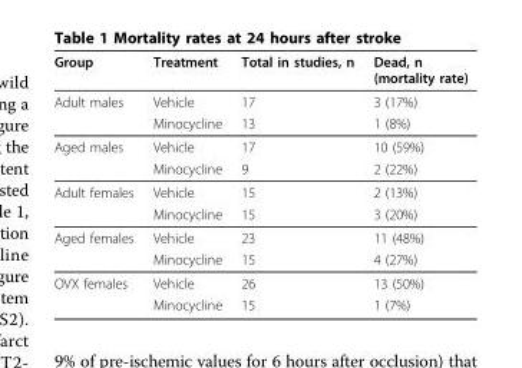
<table><thead><tr><td>Group</td><td>Treatment</td><td>Total in studies, n</td><td>Dead, n (mortality rate)</td></tr></thead><tbody><tr><td rowspan="2">Adult males</td><td>Vehicle</td><td>17</td><td>3 (17%)</td></tr><tr><td>Minocycline</td><td>13</td><td>1 (8%)</td></tr><tr><td rowspan="2">Aged males</td><td>Vehicle</td><td>17</td><td>10 (59%)</td></tr><tr><td>Minocycline</td><td>9</td><td>2 (22%)</td></tr><tr><td rowspan="2">Adult females</td><td>Vehicle</td><td>15</td><td>2 (13%)</td></tr><tr><td>Minocycline</td><td>15</td><td>3 (20%)</td></tr><tr><td rowspan="2">Aged females</td><td>Vehicle</td><td>23</td><td>11 (48%)</td></tr><tr><td>Minocycline</td><td>15</td><td>4 (27%)</td></tr><tr><td rowspan="2">OVX females</td><td>Vehicle</td><td>26</td><td>13 (50%)</td></tr><tr><td>Minocycline</td><td>15</td><td>1 (7%)</td></tr></tbody></table>